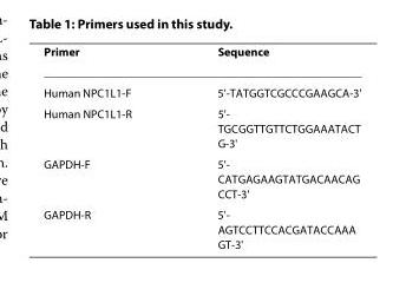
<table><thead><tr><td>Primer</td><td>Sequence</td></tr></thead><tbody><tr><td>Human NPC1L1-F</td><td>5&#x27;-TATGGTCGCCCGAAGCA-3&#x27;</td></tr><tr><td>Human NPC1L1-R</td><td>5&#x27;- TGCGGTTGTTCTGGAAATACT G-3&#x27;</td></tr><tr><td>GAPDH-F</td><td>5&#x27;- CATGAGAAGTATGACAACAG CCT-3&#x27;</td></tr><tr><td>GAPDH-R</td><td>5&#x27;- AGTCCTTCCACGATACCAAA GT-3&#x27;</td></tr></tbody></table>